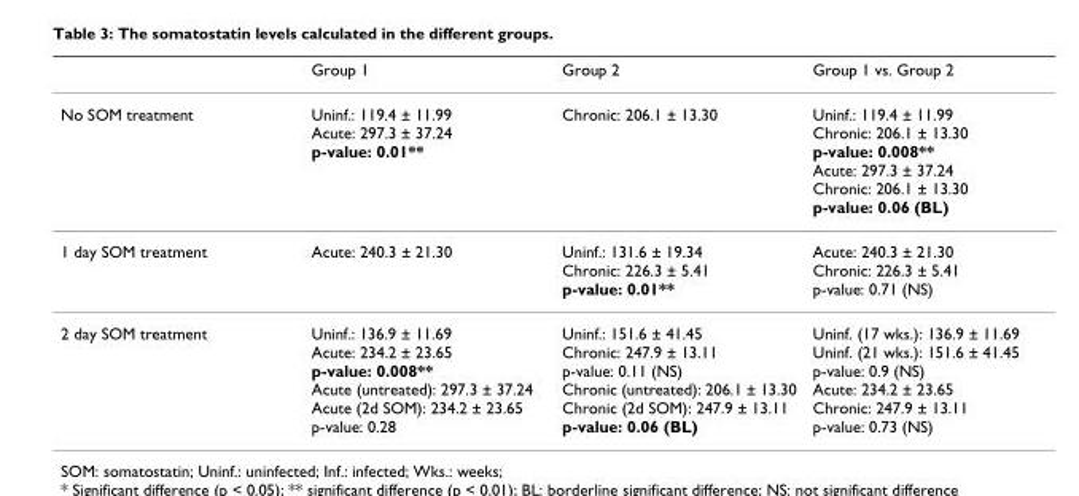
<table><thead><tr><td></td><td>Group 1</td><td>Group 2</td><td>Group 1 vs. Group 2</td></tr></thead><tbody><tr><td>No SOM treatment</td><td>Uninf.: 119.4 ± 11.99 Acute: 297.3 ± 37.24 p-value: 0.01**</td><td>Chronic: 206.1 ± 13.30</td><td>Uninf.: 119.4 ± 11.99 Chronic: 206.1 ± 13.30 p-value: 0.008** Acute: 297.3 ± 37.24 Chronic: 206.1 ± 13.30 p-value: 0.06 (BL)</td></tr><tr><td>1 day SOM treatment</td><td>Acute: 240.3 ± 21.30</td><td>Uninf.: 131.6 ± 19.34 Chronic: 226.3 ± 5.41 p-value: 0.01**</td><td>Acute: 240.3 ± 21.30 Chronic: 226.3 ± 5.41 p-value: 0.71 (NS)</td></tr><tr><td>2 day SOM treatment</td><td>Uninf.: 136.9 ± 11.69 Acute: 234.2 ± 23.65 p-value: 0.008** Acute (untreated): 297.3 ± 37.24 Acute (2d SOM): 234.2 ± 23.65 p-value: 0.28</td><td>Uninf.: 151.6 ± 41.45 Chronic: 247.9 ± 13.11 p-value: 0.11 (NS) Chronic (untreated): 206.1 ± 13.30 Chronic (2d SOM): 247.9 ± 13.11 p-value: 0.06 (BL)</td><td>Uninf. (17 wks.): 136.9 ± 11.69 Uninf. (21 wks.): 151.6 ± 41.45 p-value: 0.9 (NS) Acute: 234.2 ± 23.65 Chronic: 247.9 ± 13.11 p-value: 0.73 (NS)</td></tr></tbody></table>